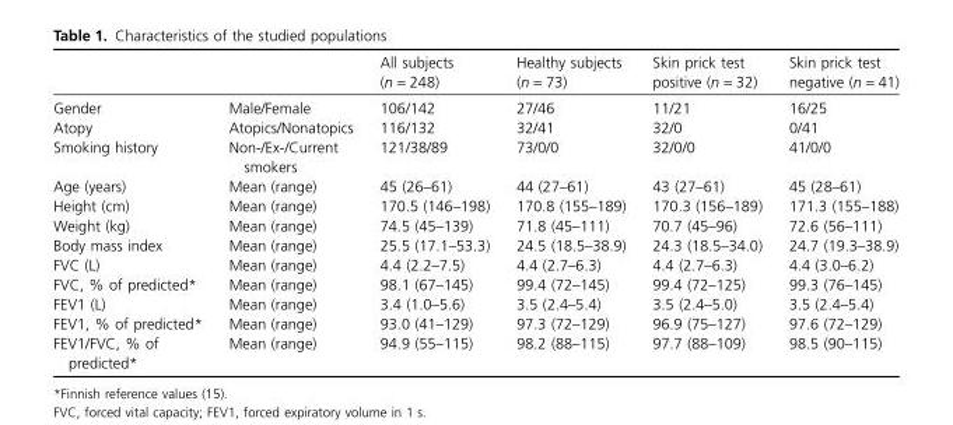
<table><thead><tr><td></td><td></td><td>All subjects (n = 248)</td><td>Healthy subjects (n = 73)</td><td>Skin prick test positive (n = 32)</td><td>Skin prick test negative (n = 41)</td></tr></thead><tbody><tr><td>Gender</td><td>Male/Female</td><td>106/142</td><td>27/46</td><td>11/21</td><td>16/25</td></tr><tr><td>Atopy</td><td>Atopics/Nonatopics</td><td>116/132</td><td>32/41</td><td>32/0</td><td>0/41</td></tr><tr><td>Smoking history</td><td>Non-/Ex-/Current smokers</td><td>121/38/89</td><td>73/0/0</td><td>32/0/0</td><td>41/0/0</td></tr><tr><td>Age (years)</td><td>Mean (range)</td><td>45 (26–61)</td><td>44 (27–61)</td><td>43 (27–61)</td><td>45 (28–61)</td></tr><tr><td>Height (cm)</td><td>Mean (range)</td><td>170.5 (146–198)</td><td>170.8 (155–189)</td><td>170.3 (156–189)</td><td>171.3 (155–188)</td></tr><tr><td>Weight (kg)</td><td>Mean (range)</td><td>74.5 (45–139)</td><td>71.8 (45–111)</td><td>70.7 (45–96)</td><td>72.6 (56–111)</td></tr><tr><td>Body mass index</td><td>Mean (range)</td><td>25.5 (17.1–53.3)</td><td>24.5 (18.5–38.9)</td><td>24.3 (18.5–34.0)</td><td>24.7 (19.3–38.9)</td></tr><tr><td>FVC (L)</td><td>Mean (range)</td><td>4.4 (2.2–7.5)</td><td>4.4 (2.7–6.3)</td><td>4.4 (2.7–6.3)</td><td>4.4 (3.0–6.2)</td></tr><tr><td>FVC, % of predicted*</td><td>Mean (range)</td><td>98.1 (67–145)</td><td>99.4 (72–145)</td><td>99.4 (72–125)</td><td>99.3 (76–145)</td></tr><tr><td>FEV1 (L)</td><td>Mean (range)</td><td>3.4 (1.0–5.6)</td><td>3.5 (2.4–5.4)</td><td>3.5 (2.4–5.0)</td><td>3.5 (2.4–5.4)</td></tr><tr><td>FEV1, % of predicted*</td><td>Mean (range)</td><td>93.0 (41–129)</td><td>97.3 (72–129)</td><td>96.9 (75–127)</td><td>97.6 (72–129)</td></tr><tr><td>FEV1/FVC, % of predicted*</td><td>Mean (range)</td><td>94.9 (55–115)</td><td>98.2 (88–115)</td><td>97.7 (88–109)</td><td>98.5 (90–115)</td></tr></tbody></table>